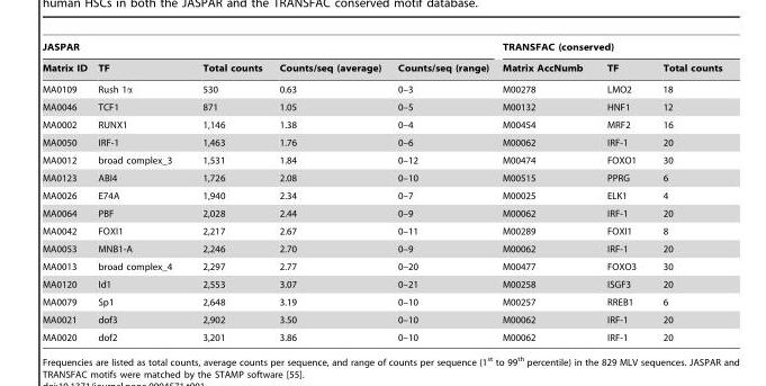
<table><thead><tr><td colspan="5">JASPAR</td><td colspan="3">TRANSFAC (conserved)</td></tr><tr><td>Matrix ID</td><td>TF</td><td>Total counts</td><td>Counts/seq (average)</td><td>Counts/seq (range)</td><td>Matrix AccNumb</td><td>TF</td><td>Total counts</td></tr></thead><tbody><tr><td>MA0109</td><td>Rush 1α</td><td>530</td><td>0.63</td><td>0–3</td><td>M00278</td><td>LMO2</td><td>18</td></tr><tr><td>MA0046</td><td>TCF1</td><td>871</td><td>1.05</td><td>0–5</td><td>M00132</td><td>HNF1</td><td>12</td></tr><tr><td>MA0002</td><td>RUNX1</td><td>1,146</td><td>1.38</td><td>0–4</td><td>M00454</td><td>MRF2</td><td>16</td></tr><tr><td>MA0050</td><td>IRF-1</td><td>1,463</td><td>1.76</td><td>0–6</td><td>M00062</td><td>IRF-1</td><td>20</td></tr><tr><td>MA0012</td><td>broad complex_3</td><td>1,531</td><td>1.84</td><td>0–12</td><td>M00474</td><td>FOXO1</td><td>30</td></tr><tr><td>MA0123</td><td>ABI4</td><td>1,726</td><td>2.08</td><td>0–10</td><td>M00515</td><td>PPRG</td><td>6</td></tr><tr><td>MA0026</td><td>E74A</td><td>1,940</td><td>2.34</td><td>0–7</td><td>M00025</td><td>ELK1</td><td>4</td></tr><tr><td>MA0064</td><td>PBF</td><td>2,028</td><td>2.44</td><td>0–9</td><td>M00062</td><td>IRF-1</td><td>20</td></tr><tr><td>MA0042</td><td>FOXI1</td><td>2,217</td><td>2.67</td><td>0–11</td><td>M00289</td><td>FOXI1</td><td>8</td></tr><tr><td>MA0053</td><td>MNB1-A</td><td>2,246</td><td>2.70</td><td>0–9</td><td>M00062</td><td>IRF-1</td><td>20</td></tr><tr><td>MA0013</td><td>broad complex_4</td><td>2,297</td><td>2.77</td><td>0–20</td><td>M00477</td><td>FOXO3</td><td>30</td></tr><tr><td>MA0120</td><td>Id1</td><td>2,553</td><td>3.07</td><td>0–21</td><td>M00258</td><td>ISGF3</td><td>20</td></tr><tr><td>MA0079</td><td>Sp1</td><td>2,648</td><td>3.19</td><td>0–10</td><td>M00257</td><td>RREB1</td><td>6</td></tr><tr><td>MA0021</td><td>dof3</td><td>2,902</td><td>3.50</td><td>0–10</td><td>M00062</td><td>IRF-1</td><td>20</td></tr><tr><td>MA0020</td><td>dof2</td><td>3,201</td><td>3.86</td><td>0–10</td><td>M00062</td><td>IRF-1</td><td>20</td></tr></tbody></table>